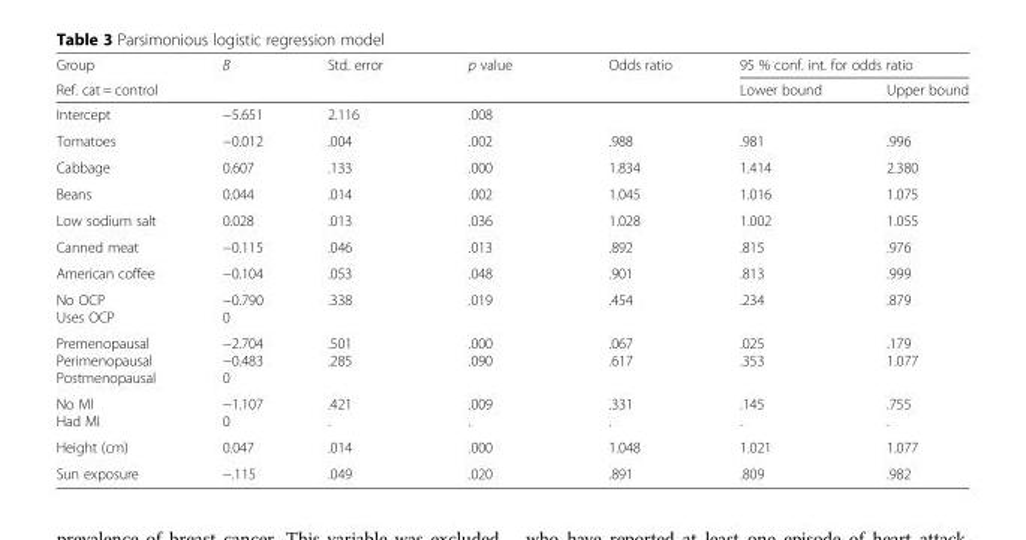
<table><thead><tr><td rowspan="2">Group Ref. cat = control</td><td rowspan="2">B</td><td rowspan="2">Std. error</td><td rowspan="2">p value</td><td rowspan="2">Odds ratio</td><td colspan="2">95 % conf. int. for odds ratio</td></tr><tr><td>Lower bound</td><td>Upper bound</td></tr></thead><tbody><tr><td>Intercept</td><td>−5.651</td><td>2.116</td><td>.008</td><td></td><td></td><td></td></tr><tr><td>Tomatoes</td><td>−0.012</td><td>.004</td><td>.002</td><td>.988</td><td>.981</td><td>.996</td></tr><tr><td>Cabbage</td><td>0.607</td><td>.133</td><td>.000</td><td>1.834</td><td>1.414</td><td>2.380</td></tr><tr><td>Beans</td><td>0.044</td><td>.014</td><td>.002</td><td>1.045</td><td>1.016</td><td>1.075</td></tr><tr><td>Low sodium salt</td><td>0.028</td><td>.013</td><td>.036</td><td>1.028</td><td>1.002</td><td>1.055</td></tr><tr><td>Canned meat</td><td>−0.115</td><td>.046</td><td>.013</td><td>.892</td><td>.815</td><td>.976</td></tr><tr><td>American coffee</td><td>−0.104</td><td>.053</td><td>.048</td><td>.901</td><td>.813</td><td>.999</td></tr><tr><td>No OCP Uses OCP</td><td>−0.790 0</td><td>.338</td><td>.019</td><td>.454</td><td>.234</td><td>.879</td></tr><tr><td>Premenopausal Perimenopausal Postmenopausal</td><td>−2.704 −0.483 0</td><td>.501 .285</td><td>.000 .090</td><td>.067 .617</td><td>.025 .353</td><td>.179 1.077</td></tr><tr><td>No MI Had MI</td><td>−1.107 0</td><td>.421 .</td><td>.009 .</td><td>.331 .</td><td>.145 .</td><td>.755 .</td></tr><tr><td>Height (cm)</td><td>0.047</td><td>.014</td><td>.000</td><td>1.048</td><td>1.021</td><td>1.077</td></tr><tr><td>Sun exposure</td><td>−.115</td><td>.049</td><td>.020</td><td>.891</td><td>.809</td><td>.982</td></tr></tbody></table>